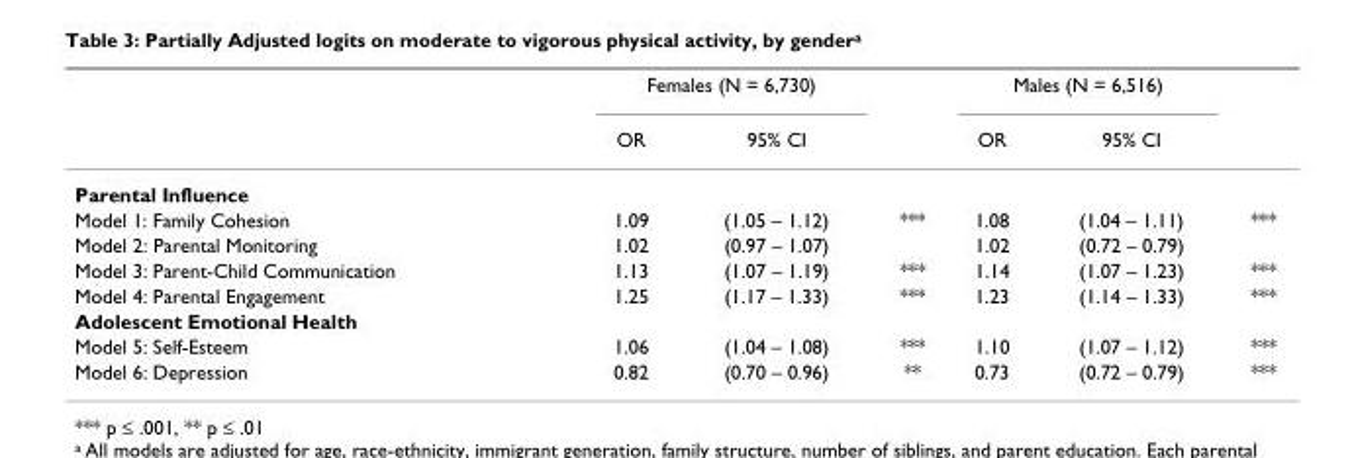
<table><thead><tr><td rowspan="2"></td><td colspan="2">Females (N = 6,730)</td><td rowspan="2"></td><td colspan="2">Males (N = 6,516)</td><td rowspan="2"></td></tr><tr><td>OR</td><td>95% CI</td><td>OR</td><td>95% CI</td></tr></thead><tbody><tr><td colspan="7">Parental Influence</td></tr><tr><td>Model 1: Family Cohesion</td><td>1.09</td><td>(1.05 – 1.12)</td><td>***</td><td>1.08</td><td>(1.04 – 1.11)</td><td>***</td></tr><tr><td>Model 2: Parental Monitoring</td><td>1.02</td><td>(0.97 – 1.07)</td><td></td><td>1.02</td><td>(0.72 – 0.79)</td><td></td></tr><tr><td>Model 3: Parent-Child Communication</td><td>1.13</td><td>(1.07 – 1.19)</td><td>***</td><td>1.14</td><td>(1.07 – 1.23)</td><td>***</td></tr><tr><td>Model 4: Parental Engagement</td><td>1.25</td><td>(1.17 – 1.33)</td><td>***</td><td>1.23</td><td>(1.14 – 1.33)</td><td>***</td></tr><tr><td colspan="7">Adolescent Emotional Health</td></tr><tr><td>Model 5: Self-Esteem</td><td>1.06</td><td>(1.04 – 1.08)</td><td>***</td><td>1.10</td><td>(1.07 – 1.12)</td><td>***</td></tr><tr><td>Model 6: Depression</td><td>0.82</td><td>(0.70 – 0.96)</td><td>**</td><td>0.73</td><td>(0.72 – 0.79)</td><td>***</td></tr></tbody></table>